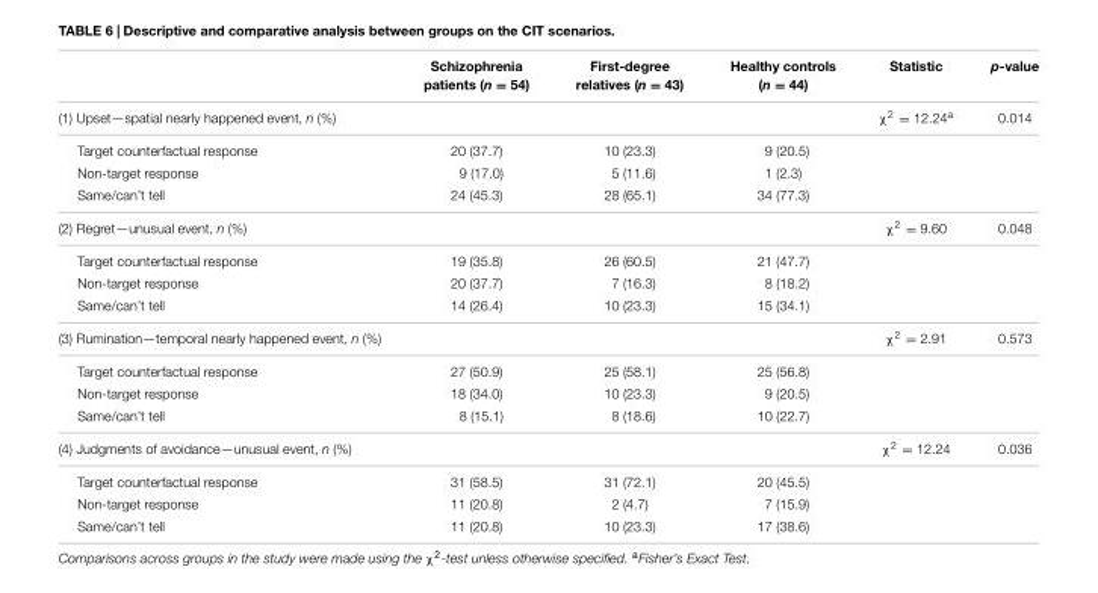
<table><thead><tr><td></td><td>Schizophrenia patients (n = 54)</td><td>First-degree relatives (n = 43)</td><td>Healthy controls (n = 44)</td><td>Statistic</td><td>p-value</td></tr></thead><tbody><tr><td>(1) Upset—spatial nearly happened event, n (%)</td><td></td><td></td><td></td><td>χ<sup>2</sup> = 12.24<sup>a</sup></td><td>0.014</td></tr><tr><td>Target counterfactual response</td><td>20 (37.7)</td><td>10 (23.3)</td><td>9 (20.5)</td><td></td><td></td></tr><tr><td>Non-target response</td><td>9 (17.0)</td><td>5 (11.6)</td><td>1 (2.3)</td><td></td><td></td></tr><tr><td>Same/can’t tell</td><td>24 (45.3)</td><td>28 (65.1)</td><td>34 (77.3)</td><td></td><td></td></tr><tr><td>(2) Regret—unusual event, n (%)</td><td></td><td></td><td></td><td>χ<sup>2</sup> = 9.60</td><td>0.048</td></tr><tr><td>Target counterfactual response</td><td>19 (35.8)</td><td>26 (60.5)</td><td>21 (47.7)</td><td></td><td></td></tr><tr><td>Non-target response</td><td>20 (37.7)</td><td>7 (16.3)</td><td>8 (18.2)</td><td></td><td></td></tr><tr><td>Same/can’t tell</td><td>14 (26.4)</td><td>10 (23.3)</td><td>15 (34.1)</td><td></td><td></td></tr><tr><td>(3) Rumination—temporal nearly happened event, n (%)</td><td></td><td></td><td></td><td>χ<sup>2</sup> = 2.91</td><td>0.573</td></tr><tr><td>Target counterfactual response</td><td>27 (50.9)</td><td>25 (58.1)</td><td>25 (56.8)</td><td></td><td></td></tr><tr><td>Non-target response</td><td>18 (34.0)</td><td>10 (23.3)</td><td>9 (20.5)</td><td></td><td></td></tr><tr><td>Same/can’t tell</td><td>8 (15.1)</td><td>8 (18.6)</td><td>10 (22.7)</td><td></td><td></td></tr><tr><td>(4) Judgments of avoidance—unusual event, n (%)</td><td></td><td></td><td></td><td>χ<sup>2</sup> = 12.24</td><td>0.036</td></tr><tr><td>Target counterfactual response</td><td>31 (58.5)</td><td>31 (72.1)</td><td>20 (45.5)</td><td></td><td></td></tr><tr><td>Non-target response</td><td>11 (20.8)</td><td>2 (4.7)</td><td>7 (15.9)</td><td></td><td></td></tr><tr><td>Same/can’t tell</td><td>11 (20.8)</td><td>10 (23.3)</td><td>17 (38.6)</td><td></td><td></td></tr></tbody></table>